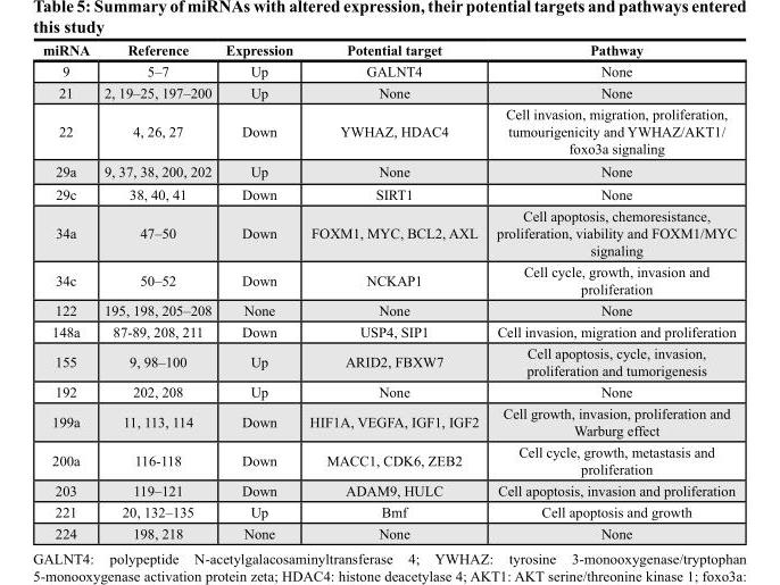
<table><thead><tr><td>miRNA</td><td>Reference</td><td>Expression</td><td>Potential target</td><td>Pathway</td></tr></thead><tbody><tr><td>9</td><td>5–7</td><td>Up</td><td>GALNT4</td><td>None</td></tr><tr><td>21</td><td>2, 19–25, 197–200</td><td>Up</td><td>None</td><td>None</td></tr><tr><td>22</td><td>4, 26, 27</td><td>Down</td><td>YWHAZ, HDAC4</td><td>Cell invasion, migration, proliferation, tumourigenicity and YWHAZ/AKT1/ foxo3a signaling</td></tr><tr><td>29a</td><td>9, 37, 38, 200, 202</td><td>Up</td><td>None</td><td>None</td></tr><tr><td>29c</td><td>38, 40, 41</td><td>Down</td><td>SIRT1</td><td>None</td></tr><tr><td>34a</td><td>47–50</td><td>Down</td><td>FOXM1, MYC, BCL2, AXL</td><td>Cell apoptosis, chemoresistance, proliferation, viability and FOXM1/MYC signaling</td></tr><tr><td>34c</td><td>50–52</td><td>Down</td><td>NCKAP1</td><td>Cell cycle, growth, invasion and proliferation</td></tr><tr><td>122</td><td>195, 198, 205–208</td><td>None</td><td>None</td><td>None</td></tr><tr><td>148a</td><td>87-89, 208, 211</td><td>Down</td><td>USP4, SIP1</td><td>Cell invasion, migration and proliferation</td></tr><tr><td>155</td><td>9, 98–100</td><td>Up</td><td>ARID2, FBXW7</td><td>Cell apoptosis, cycle, invasion, proliferation and tumorigenesis</td></tr><tr><td>192</td><td>202, 208</td><td>Up</td><td>None</td><td>None</td></tr><tr><td>199a</td><td>11, 113, 114</td><td>Down</td><td>HIF1A, VEGFA, IGF1, IGF2</td><td>Cell growth, invasion, proliferation and Warburg effect</td></tr><tr><td>200a</td><td>116-118</td><td>Down</td><td>MACC1, CDK6, ZEB2</td><td>Cell cycle, growth, metastasis and proliferation</td></tr><tr><td>203</td><td>119–121</td><td>Down</td><td>ADAM9, HULC</td><td>Cell apoptosis, invasion and proliferation</td></tr><tr><td>221</td><td>20, 132–135</td><td>Up</td><td>Bmf</td><td>Cell apoptosis and growth</td></tr><tr><td>224</td><td>198, 218</td><td>None</td><td>None</td><td>None</td></tr></tbody></table>